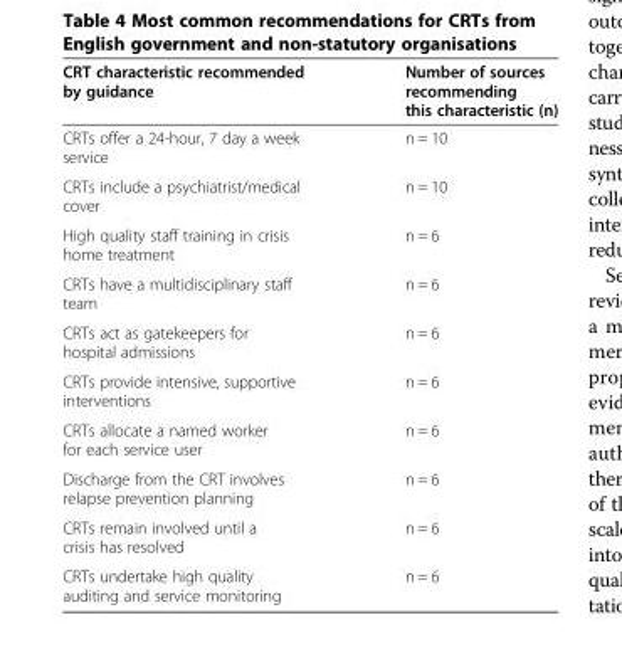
<table><thead><tr><td>CRT characteristic recommended by guidance</td><td>Number of sources recommending this characteristic (n)</td></tr></thead><tbody><tr><td>CRTs offer a 24-hour, 7 day a week service</td><td>n = 10</td></tr><tr><td>CRTs include a psychiatrist/medical cover</td><td>n = 10</td></tr><tr><td>High quality staff training in crisis home treatment</td><td>n = 6</td></tr><tr><td>CRTs have a multidisciplinary staff team</td><td>n = 6</td></tr><tr><td>CRTs act as gatekeepers for hospital admissions</td><td>n = 6</td></tr><tr><td>CRTs provide intensive, supportive interventions</td><td>n = 6</td></tr><tr><td>CRTs allocate a named worker for each service user</td><td>n = 6</td></tr><tr><td>Discharge from the CRT involves relapse prevention planning</td><td>n = 6</td></tr><tr><td>CRTs remain involved until a crisis has resolved</td><td>n = 6</td></tr><tr><td>CRTs undertake high quality auditing and service monitoring</td><td>n = 6</td></tr></tbody></table>